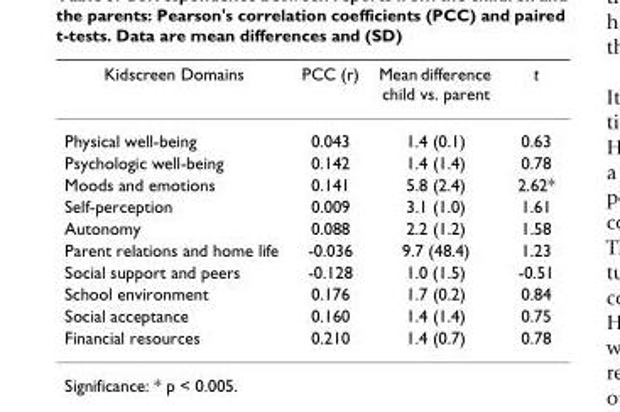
<table><thead><tr><td>Kidscreen Domains</td><td>PCC (r)</td><td>Mean difference child vs. parent</td><td>t</td></tr></thead><tbody><tr><td>Physical well-being</td><td>0.043</td><td>1.4 (0.1)</td><td>0.63</td></tr><tr><td>Psychologic well-being</td><td>0.142</td><td>1.4 (1.4)</td><td>0.78</td></tr><tr><td>Moods and emotions</td><td>0.141</td><td>5.8 (2.4)</td><td>2.62*</td></tr><tr><td>Self-perception</td><td>0.009</td><td>3.1 (1.0)</td><td>1.61</td></tr><tr><td>Autonomy</td><td>0.088</td><td>2.2 (1.2)</td><td>1.58</td></tr><tr><td>Parent relations and home life</td><td>-0.036</td><td>9.7 (48.4)</td><td>1.23</td></tr><tr><td>Social support and peers</td><td>-0.128</td><td>1.0 (1.5)</td><td>-0.51</td></tr><tr><td>School environment</td><td>0.176</td><td>1.7 (0.2)</td><td>0.84</td></tr><tr><td>Social acceptance</td><td>0.160</td><td>1.4 (1.4)</td><td>0.75</td></tr><tr><td>Financial resources</td><td>0.210</td><td>1.4 (0.7)</td><td>0.78</td></tr></tbody></table>